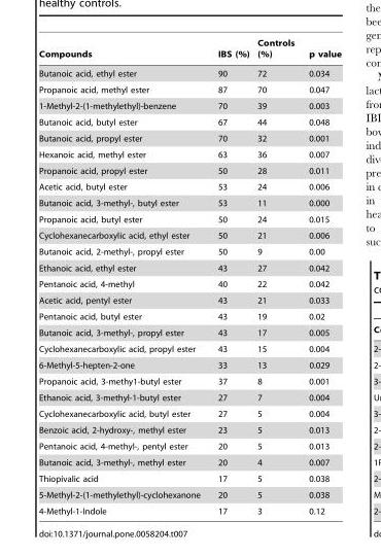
<table><thead><tr><td>Compounds</td><td>IBS (%)</td><td>Controls (%)</td><td>p value</td></tr></thead><tbody><tr><td>Butanoic acid, ethyl ester</td><td>90</td><td>72</td><td>0.034</td></tr><tr><td>Propanoic acid, methyl ester</td><td>87</td><td>70</td><td>0.047</td></tr><tr><td>1-Methyl-2-(1-methylethyl)-benzene</td><td>70</td><td>39</td><td>0.003</td></tr><tr><td>Butanoic acid, butyl ester</td><td>67</td><td>44</td><td>0.048</td></tr><tr><td>Butanoic acid, propyl ester</td><td>70</td><td>32</td><td>0.001</td></tr><tr><td>Hexanoic acid, methyl ester</td><td>63</td><td>36</td><td>0.007</td></tr><tr><td>Propanoic acid, propyl ester</td><td>50</td><td>28</td><td>0.011</td></tr><tr><td>Acetic acid, butyl ester</td><td>53</td><td>24</td><td>0.006</td></tr><tr><td>Butanoic acid, 3-methyl-, butyl ester</td><td>53</td><td>11</td><td>0.000</td></tr><tr><td>Propanoic acid, butyl ester</td><td>50</td><td>24</td><td>0.015</td></tr><tr><td>Cyclohexanecarboxylic acid, ethyl ester</td><td>50</td><td>21</td><td>0.006</td></tr><tr><td>Butanoic acid, 2-methyl-, propyl ester</td><td>50</td><td>9</td><td>0.00</td></tr><tr><td>Ethanoic acid, ethyl ester</td><td>43</td><td>27</td><td>0.042</td></tr><tr><td>Pentanoic acid, 4-methyl</td><td>40</td><td>22</td><td>0.042</td></tr><tr><td>Acetic acid, pentyl ester</td><td>43</td><td>21</td><td>0.033</td></tr><tr><td>Pentanoic acid, butyl ester</td><td>43</td><td>19</td><td>0.02</td></tr><tr><td>Butanoic acid, 3-methyl-, propyl ester</td><td>43</td><td>17</td><td>0.005</td></tr><tr><td>Cyclohexanecarboxylic acid, propyl ester</td><td>43</td><td>15</td><td>0.004</td></tr><tr><td>6-Methyl-5-hepten-2-one</td><td>33</td><td>13</td><td>0.029</td></tr><tr><td>Propanoic acid, 3-methy1-butyl ester</td><td>37</td><td>8</td><td>0.001</td></tr><tr><td>Ethanoic acid, 3-methyl-1-butyl ester</td><td>27</td><td>7</td><td>0.004</td></tr><tr><td>Cyclohexanecarboxylic acid, butyl ester</td><td>27</td><td>5</td><td>0.004</td></tr><tr><td>Benzoic acid, 2-hydroxy-, methyl ester</td><td>23</td><td>5</td><td>0.013</td></tr><tr><td>Pentanoic acid, 4-methyl-, pentyl ester</td><td>20</td><td>5</td><td>0.013</td></tr><tr><td>Butanoic acid, 3-methyl-, methyl ester</td><td>20</td><td>4</td><td>0.007</td></tr><tr><td>Thiopivalic acid</td><td>17</td><td>5</td><td>0.038</td></tr><tr><td>5-Methyl-2-(1-methylethyl)-cyclohexanone</td><td>20</td><td>5</td><td>0.038</td></tr><tr><td>4-Methyl-1-Indole</td><td>17</td><td>3</td><td>0.12</td></tr></tbody></table>